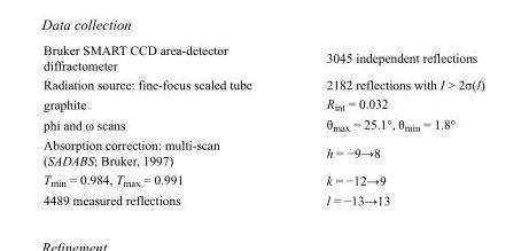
<table><tbody><tr><td>Bruker SMART CCD area-detector diffractometer</td><td>3045 independent reflections</td></tr><tr><td>Radiation source: fine-focus sealed tube</td><td>2182 reflections with I &gt; 2σ(I)</td></tr><tr><td>graphite</td><td>R<sub>int</sub> = 0.032</td></tr><tr><td>phi and ω scans</td><td>θ<sub>max</sub> = 25.1°, θ<sub>min</sub> = 1.8°</td></tr><tr><td>Absorption correction: multi-scan (SADABS; Bruker, 1997)</td><td>h = −9→8</td></tr><tr><td>T<sub>min</sub> = 0.984, T<sub>max</sub> = 0.991</td><td>k = −12→9</td></tr><tr><td>4489 measured reflections</td><td>l = −13→13</td></tr></tbody></table>